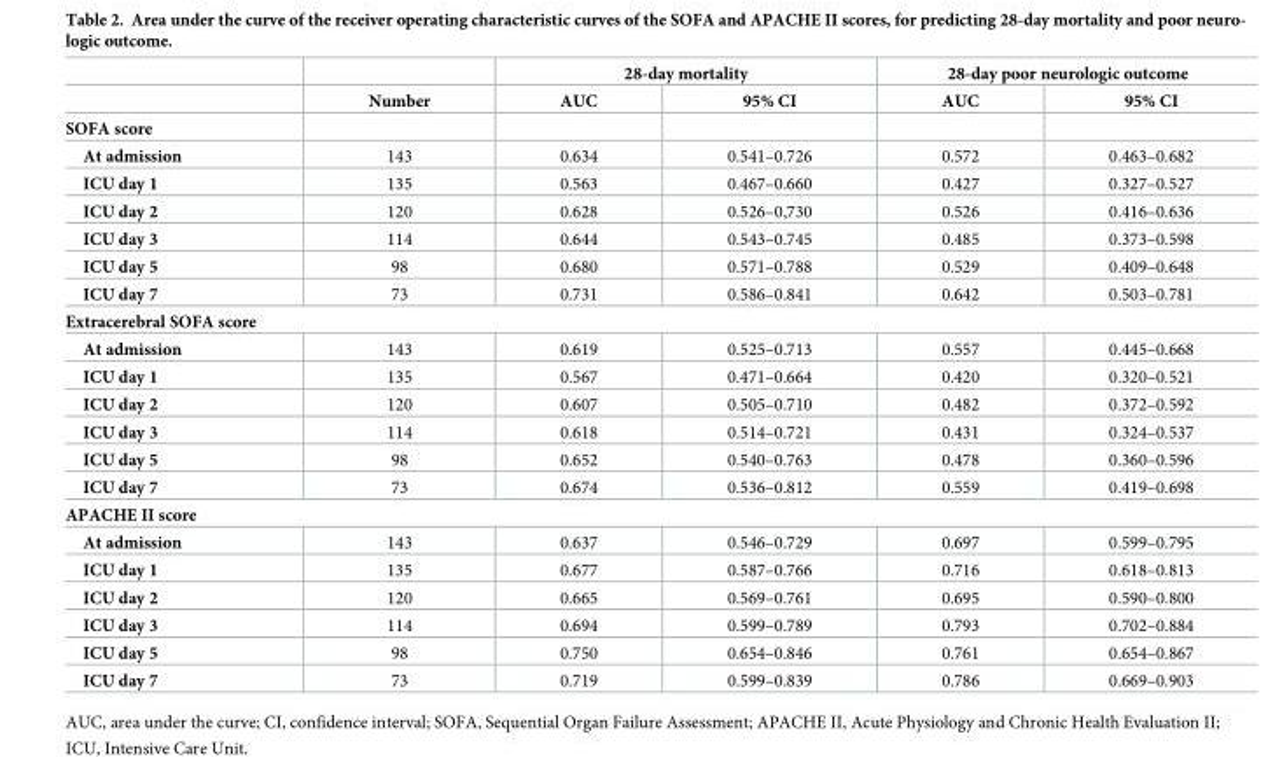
<table><thead><tr><td rowspan="2"></td><td rowspan="2">Number</td><td colspan="2">28-day mortality</td><td colspan="2">28-day poor neurologic outcome</td></tr><tr><td>AUC</td><td>95% CI</td><td>AUC</td><td>95% CI</td></tr></thead><tbody><tr><td colspan="6">SOFA score</td></tr><tr><td>At admission</td><td>143</td><td>0.634</td><td>0.541–0.726</td><td>0.572</td><td>0.463–0.682</td></tr><tr><td>ICU day 1</td><td>135</td><td>0.563</td><td>0.467–0.660</td><td>0.427</td><td>0.327–0.527</td></tr><tr><td>ICU day 2</td><td>120</td><td>0.628</td><td>0.526–0,730</td><td>0.526</td><td>0.416–0.636</td></tr><tr><td>ICU day 3</td><td>114</td><td>0.644</td><td>0.543–0.745</td><td>0.485</td><td>0.373–0.598</td></tr><tr><td>ICU day 5</td><td>98</td><td>0.680</td><td>0.571–0.788</td><td>0.529</td><td>0.409–0.648</td></tr><tr><td>ICU day 7</td><td>73</td><td>0.731</td><td>0.586–0.841</td><td>0.642</td><td>0.503–0.781</td></tr><tr><td colspan="6">Extracerebral SOFA score</td></tr><tr><td>At admission</td><td>143</td><td>0.619</td><td>0.525–0.713</td><td>0.557</td><td>0.445–0.668</td></tr><tr><td>ICU day 1</td><td>135</td><td>0.567</td><td>0.471–0.664</td><td>0.420</td><td>0.320–0.521</td></tr><tr><td>ICU day 2</td><td>120</td><td>0.607</td><td>0.505–0.710</td><td>0.482</td><td>0.372–0.592</td></tr><tr><td>ICU day 3</td><td>114</td><td>0.618</td><td>0.514–0.721</td><td>0.431</td><td>0.324–0.537</td></tr><tr><td>ICU day 5</td><td>98</td><td>0.652</td><td>0.540–0.763</td><td>0.478</td><td>0.360–0.596</td></tr><tr><td>ICU day 7</td><td>73</td><td>0.674</td><td>0.536–0.812</td><td>0.559</td><td>0.419–0.698</td></tr><tr><td colspan="6">APACHE II score</td></tr><tr><td>At admission</td><td>143</td><td>0.637</td><td>0.546–0.729</td><td>0.697</td><td>0.599–0.795</td></tr><tr><td>ICU day 1</td><td>135</td><td>0.677</td><td>0.587–0.766</td><td>0.716</td><td>0.618–0.813</td></tr><tr><td>ICU day 2</td><td>120</td><td>0.665</td><td>0.569–0.761</td><td>0.695</td><td>0.590–0.800</td></tr><tr><td>ICU day 3</td><td>114</td><td>0.694</td><td>0.599–0.789</td><td>0.793</td><td>0.702–0.884</td></tr><tr><td>ICU day 5</td><td>98</td><td>0.750</td><td>0.654–0.846</td><td>0.761</td><td>0.654–0.867</td></tr><tr><td>ICU day 7</td><td>73</td><td>0.719</td><td>0.599–0.839</td><td>0.786</td><td>0.669–0.903</td></tr></tbody></table>